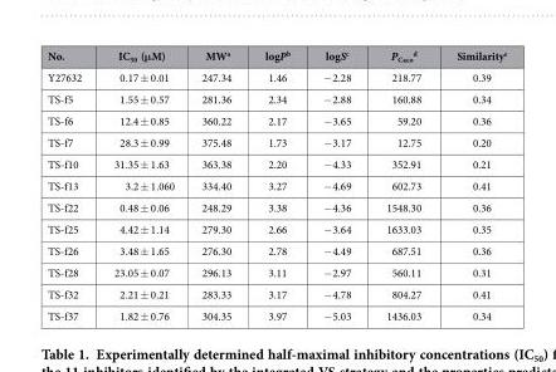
<table><thead><tr><td>No.</td><td>IC<sub>50</sub> (μM)</td><td>MW<sup>a</sup></td><td>logP<sup>b</sup></td><td>logS<sup>c</sup></td><td>P<sub>Caco</sub> <sup>d</sup></td><td>Similarity<sup>e</sup></td></tr></thead><tbody><tr><td>Y27632</td><td>0.17 ± 0.01</td><td>247.34</td><td>1.46</td><td>− 2.28</td><td>218.77</td><td>0.39</td></tr><tr><td>TS-f5</td><td>1.55 ± 0.57</td><td>281.36</td><td>2.34</td><td>− 2.88</td><td>160.88</td><td>0.34</td></tr><tr><td>TS-f6</td><td>12.4 ± 0.85</td><td>360.22</td><td>2.17</td><td>− 3.65</td><td>59.20</td><td>0.36</td></tr><tr><td>TS-f7</td><td>28.3 ± 0.99</td><td>375.48</td><td>1.73</td><td>− 3.17</td><td>12.75</td><td>0.20</td></tr><tr><td>TS-f10</td><td>31.35 ± 1.63</td><td>363.38</td><td>2.20</td><td>− 4.33</td><td>352.91</td><td>0.21</td></tr><tr><td>TS-f13</td><td>3.2 ± 1.060</td><td>334.40</td><td>3.27</td><td>− 4.69</td><td>602.73</td><td>0.41</td></tr><tr><td>TS-f22</td><td>0.48 ± 0.06</td><td>248.29</td><td>3.38</td><td>− 4.36</td><td>1548.30</td><td>0.36</td></tr><tr><td>TS-f25</td><td>4.42 ± 1.14</td><td>279.30</td><td>2.66</td><td>− 3.64</td><td>1633.03</td><td>0.35</td></tr><tr><td>TS-f26</td><td>3.48 ± 1.65</td><td>276.30</td><td>2.78</td><td>− 4.49</td><td>687.51</td><td>0.36</td></tr><tr><td>TS-f28</td><td>23.05 ± 0.07</td><td>296.13</td><td>3.11</td><td>− 2.97</td><td>560.11</td><td>0.31</td></tr><tr><td>TS-f32</td><td>2.21 ± 0.21</td><td>283.33</td><td>3.17</td><td>− 4.78</td><td>804.27</td><td>0.41</td></tr><tr><td>TS-f37</td><td>1.82 ± 0.76</td><td>304.35</td><td>3.97</td><td>− 5.03</td><td>1436.03</td><td>0.34</td></tr></tbody></table>